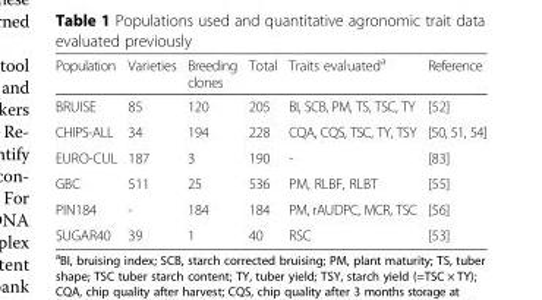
<table><thead><tr><td>Population</td><td>Varieties</td><td>Breeding clones</td><td>Total</td><td>Traits evaluated<sup>a</sup></td><td>Reference</td></tr></thead><tbody><tr><td>BRUISE</td><td>85</td><td>120</td><td>205</td><td>BI, SCB, PM, TS, TSC, TY</td><td>[52]</td></tr><tr><td>CHIPS-ALL</td><td>34</td><td>194</td><td>228</td><td>CQA, CQS, TSC, TY, TSY</td><td>[50, 51, 54]</td></tr><tr><td>EURO-CUL</td><td>187</td><td>3</td><td>190</td><td>-</td><td>[83]</td></tr><tr><td>GBC</td><td>511</td><td>25</td><td>536</td><td>PM, RLBF, RLBT</td><td>[55]</td></tr><tr><td>PIN184</td><td>-</td><td>184</td><td>184</td><td>PM, rAUDPC, MCR, TSC</td><td>[56]</td></tr><tr><td>SUGAR40</td><td>39</td><td>1</td><td>40</td><td>RSC</td><td>[53]</td></tr></tbody></table>